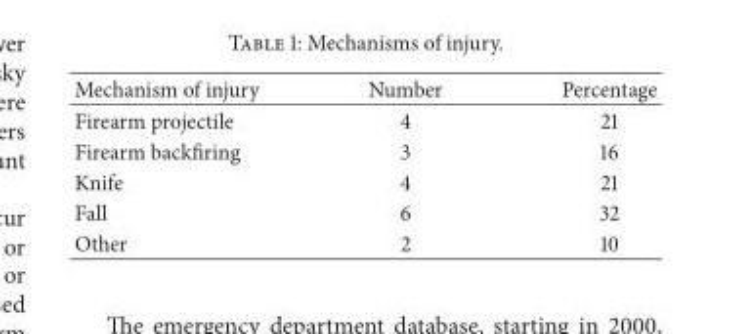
<table><thead><tr><td>Mechanism of injury</td><td>Number</td><td>Percentage</td></tr></thead><tbody><tr><td>Firearm projectile</td><td>4</td><td>21</td></tr><tr><td>Firearm backfiring</td><td>3</td><td>16</td></tr><tr><td>Knife</td><td>4</td><td>21</td></tr><tr><td>Fall</td><td>6</td><td>32</td></tr><tr><td>Other</td><td>2</td><td>10</td></tr></tbody></table>